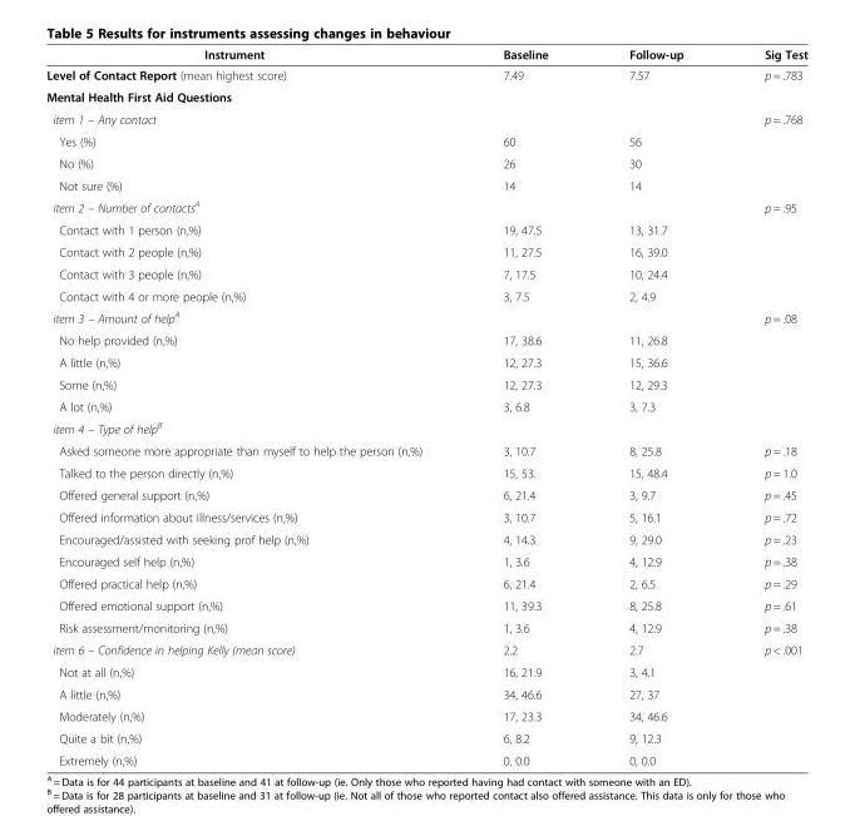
<table><thead><tr><td>Instrument</td><td>Baseline</td><td>Follow-up</td><td>Sig Test</td></tr></thead><tbody><tr><td>Level of Contact Report (mean highest score)</td><td>7.49</td><td>7.57</td><td>p = .783</td></tr><tr><td colspan="4">Mental Health First Aid Questions</td></tr><tr><td>item 1 – Any contact</td><td></td><td></td><td>p = .768</td></tr><tr><td>Yes (%)</td><td>60</td><td>56</td><td></td></tr><tr><td>No (%)</td><td>26</td><td>30</td><td></td></tr><tr><td>Not sure (%)</td><td>14</td><td>14</td><td></td></tr><tr><td>item 2 – Number of contacts<sup>A</sup></td><td></td><td></td><td>p = .95</td></tr><tr><td>Contact with 1 person (n,%)</td><td>19, 47.5</td><td>13, 31.7</td><td></td></tr><tr><td>Contact with 2 people (n,%)</td><td>11, 27.5</td><td>16, 39.0</td><td></td></tr><tr><td>Contact with 3 people (n,%)</td><td>7, 17.5</td><td>10, 24.4</td><td></td></tr><tr><td>Contact with 4 or more people (n,%)</td><td>3, 7.5</td><td>2, 4.9</td><td></td></tr><tr><td>item 3 – Amount of help<sup>A</sup></td><td></td><td></td><td>p = .08</td></tr><tr><td>No help provided (n,%)</td><td>17, 38.6</td><td>11, 26.8</td><td></td></tr><tr><td>A little (n,%)</td><td>12, 27.3</td><td>15, 36.6</td><td></td></tr><tr><td>Some (n,%)</td><td>12, 27.3</td><td>12, 29.3</td><td></td></tr><tr><td>A lot (n,%)</td><td>3, 6.8</td><td>3, 7.3</td><td></td></tr><tr><td colspan="4">item 4 – Type of help<sup>B</sup></td></tr><tr><td>Asked someone more appropriate than myself to help the person (n,%)</td><td>3, 10.7</td><td>8, 25.8</td><td>p = .18</td></tr><tr><td>Talked to the person directly (n,%)</td><td>15, 53.</td><td>15, 48.4</td><td>p = 1.0</td></tr><tr><td>Offered general support (n,%)</td><td>6, 21.4</td><td>3, 9.7</td><td>p = .45</td></tr><tr><td>Offered information about illness/services (n,%)</td><td>3, 10.7</td><td>5, 16.1</td><td>p = .72</td></tr><tr><td>Encouraged/assisted with seeking prof help (n,%)</td><td>4, 14.3</td><td>9, 29.0</td><td>p = .23</td></tr><tr><td>Encouraged self help (n,%)</td><td>1, 3.6</td><td>4, 12.9</td><td>p = .38</td></tr><tr><td>Offered practical help (n,%)</td><td>6, 21.4</td><td>2, 6.5</td><td>p = .29</td></tr><tr><td>Offered emotional support (n,%)</td><td>11, 39.3</td><td>8, 25.8</td><td>p = .61</td></tr><tr><td>Risk assessment/monitoring (n,%)</td><td>1, 3.6</td><td>4, 12.9</td><td>p = .38</td></tr><tr><td>item 6 – Confidence in helping Kelly (mean score)</td><td>2.2</td><td>2.7</td><td>p &lt; .001</td></tr><tr><td>Not at all (n,%)</td><td>16, 21.9</td><td>3, 4.1</td><td></td></tr><tr><td>A little (n,%)</td><td>34, 46.6</td><td>27, 37</td><td></td></tr><tr><td>Moderately (n,%)</td><td>17, 23.3</td><td>34, 46.6</td><td></td></tr><tr><td>Quite a bit (n,%)</td><td>6, 8.2</td><td>9, 12.3</td><td></td></tr><tr><td>Extremely (n,%)</td><td>0, 0.0</td><td>0, 0.0</td><td></td></tr></tbody></table>